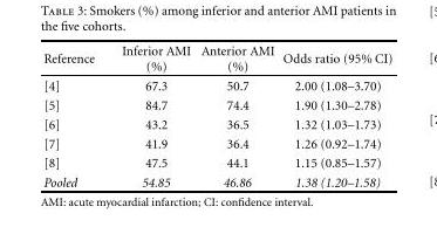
<table><thead><tr><td>Reference</td><td>Inferior AMI (%)</td><td>Anterior AMI (%)</td><td>Odds ratio (95% CI)</td></tr></thead><tbody><tr><td>[4]</td><td>67.3</td><td>50.7</td><td>2.00 (1.08–3.70)</td></tr><tr><td>[5]</td><td>84.7</td><td>74.4</td><td>1.90 (1.30–2.78)</td></tr><tr><td>[6]</td><td>43.2</td><td>36.5</td><td>1.32 (1.03–1.73)</td></tr><tr><td>[7]</td><td>41.9</td><td>36.4</td><td>1.26 (0.92–1.74)</td></tr><tr><td>[8]</td><td>47.5</td><td>44.1</td><td>1.15 (0.85–1.57)</td></tr><tr><td>Pooled</td><td>54.85</td><td>46.86</td><td>1.38 (1.20–1.58)</td></tr></tbody></table>